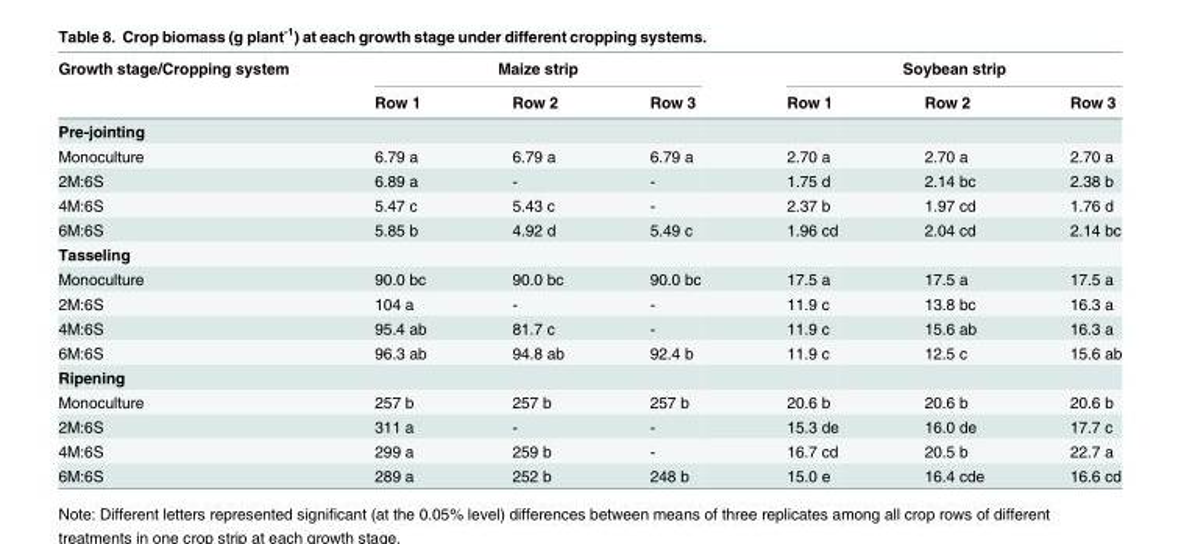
<table><thead><tr><td rowspan="2">Growth stage/Cropping system</td><td colspan="3">Maize strip</td><td colspan="3">Soybean strip</td></tr><tr><td>Row 1</td><td>Row 2</td><td>Row 3</td><td>Row 1</td><td>Row 2</td><td>Row 3</td></tr></thead><tbody><tr><td colspan="7">Pre-jointing</td></tr><tr><td>Monoculture</td><td>6.79 a</td><td>6.79 a</td><td>6.79 a</td><td>2.70 a</td><td>2.70 a</td><td>2.70 a</td></tr><tr><td>2M:6S</td><td>6.89 a</td><td>-</td><td>-</td><td>1.75 d</td><td>2.14 bc</td><td>2.38 b</td></tr><tr><td>4M:6S</td><td>5.47 c</td><td>5.43 c</td><td>-</td><td>2.37 b</td><td>1.97 cd</td><td>1.76 d</td></tr><tr><td>6M:6S</td><td>5.85 b</td><td>4.92 d</td><td>5.49 c</td><td>1.96 cd</td><td>2.04 cd</td><td>2.14 bc</td></tr><tr><td colspan="7">Tasseling</td></tr><tr><td>Monoculture</td><td>90.0 bc</td><td>90.0 bc</td><td>90.0 bc</td><td>17.5 a</td><td>17.5 a</td><td>17.5 a</td></tr><tr><td>2M:6S</td><td>104 a</td><td>-</td><td>-</td><td>11.9 c</td><td>13.8 bc</td><td>16.3 a</td></tr><tr><td>4M:6S</td><td>95.4 ab</td><td>81.7 c</td><td>-</td><td>11.9 c</td><td>15.6 ab</td><td>16.3 a</td></tr><tr><td>6M:6S</td><td>96.3 ab</td><td>94.8 ab</td><td>92.4 b</td><td>11.9 c</td><td>12.5 c</td><td>15.6 ab</td></tr><tr><td colspan="7">Ripening</td></tr><tr><td>Monoculture</td><td>257 b</td><td>257 b</td><td>257 b</td><td>20.6 b</td><td>20.6 b</td><td>20.6 b</td></tr><tr><td>2M:6S</td><td>311 a</td><td>-</td><td>-</td><td>15.3 de</td><td>16.0 de</td><td>17.7 c</td></tr><tr><td>4M:6S</td><td>299 a</td><td>259 b</td><td>-</td><td>16.7 cd</td><td>20.5 b</td><td>22.7 a</td></tr><tr><td>6M:6S</td><td>289 a</td><td>252 b</td><td>248 b</td><td>15.0 e</td><td>16.4 cde</td><td>16.6 cd</td></tr></tbody></table>